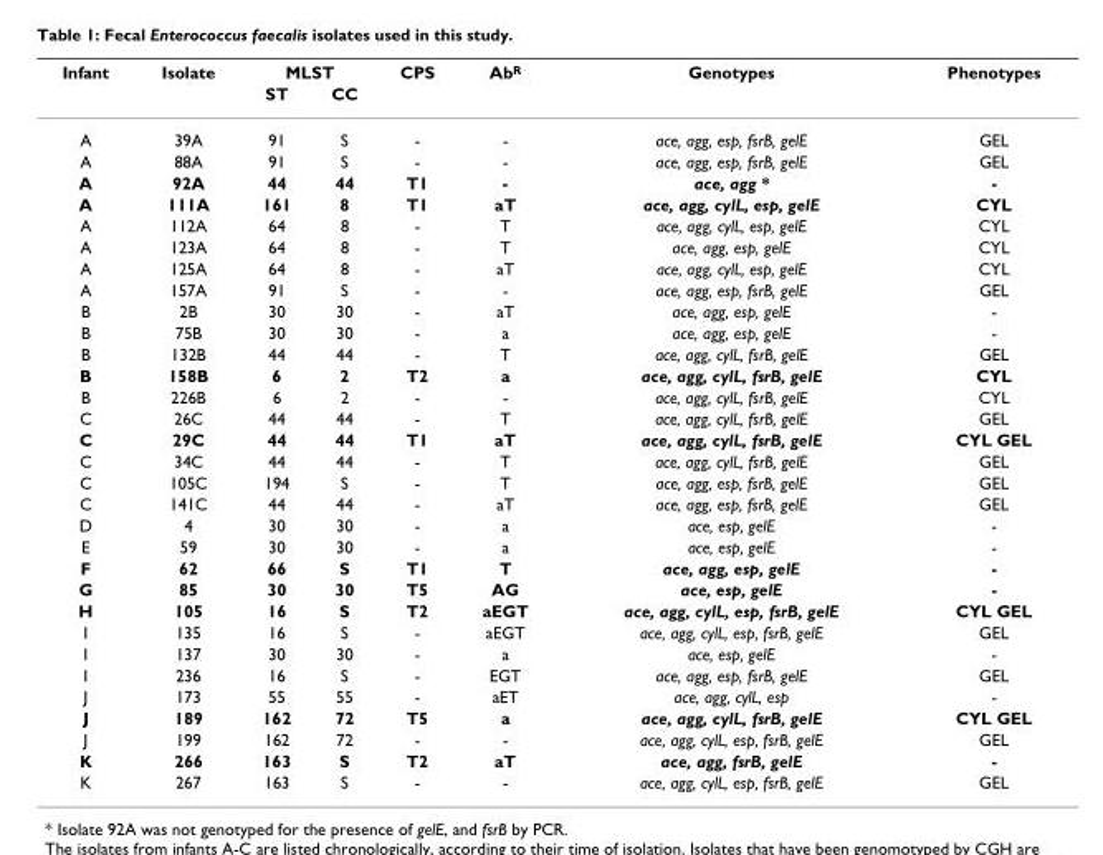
<table><thead><tr><td rowspan="2">Infant</td><td rowspan="2">Isolate</td><td colspan="2">MLST</td><td rowspan="2">CPS</td><td rowspan="2">Ab<sup>R</sup></td><td rowspan="2">Genotypes</td><td rowspan="2">Phenotypes</td></tr><tr><td>ST</td><td>CC</td></tr></thead><tbody><tr><td>A</td><td>39A</td><td>91</td><td>S</td><td>-</td><td>-</td><td>ace, agg, esp, fsrB, gelE</td><td>GEL</td></tr><tr><td>A</td><td>88A</td><td>91</td><td>S</td><td>-</td><td>-</td><td>ace, agg, esp, fsrB, gelE</td><td>GEL</td></tr><tr><td>A</td><td>92A</td><td>44</td><td>44</td><td>T1</td><td>-</td><td>ace, agg *</td><td>-</td></tr><tr><td>A</td><td>111A</td><td>161</td><td>8</td><td>T1</td><td>aT</td><td>ace, agg, cylL, esp, gelE</td><td>CYL</td></tr><tr><td>A</td><td>112A</td><td>64</td><td>8</td><td>-</td><td>T</td><td>ace, agg, cylL, esp, gelE</td><td>CYL</td></tr><tr><td>A</td><td>123A</td><td>64</td><td>8</td><td>-</td><td>T</td><td>ace, agg, esp, gelE</td><td>CYL</td></tr><tr><td>A</td><td>125A</td><td>64</td><td>8</td><td>-</td><td>aT</td><td>ace, agg, cylL, esp, gelE</td><td>CYL</td></tr><tr><td>A</td><td>157A</td><td>91</td><td>S</td><td>-</td><td>-</td><td>ace, agg, esp, fsrB, gelE</td><td>GEL</td></tr><tr><td>B</td><td>2B</td><td>30</td><td>30</td><td>-</td><td>aT</td><td>ace, agg, esp, gelE</td><td>-</td></tr><tr><td>B</td><td>75B</td><td>30</td><td>30</td><td>-</td><td>a</td><td>ace, agg, esp, gelE</td><td>-</td></tr><tr><td>B</td><td>132B</td><td>44</td><td>44</td><td>-</td><td>T</td><td>ace, agg, cylL, fsrB, gelE</td><td>GEL</td></tr><tr><td>B</td><td>158B</td><td>6</td><td>2</td><td>T2</td><td>a</td><td>ace, agg, cylL, fsrB, gelE</td><td>CYL</td></tr><tr><td>B</td><td>226B</td><td>6</td><td>2</td><td>-</td><td>-</td><td>ace, agg, cylL, fsrB, gelE</td><td>CYL</td></tr><tr><td>C</td><td>26C</td><td>44</td><td>44</td><td>-</td><td>T</td><td>ace, agg, cylL, fsrB, gelE</td><td>GEL</td></tr><tr><td>C</td><td>29C</td><td>44</td><td>44</td><td>T1</td><td>aT</td><td>ace, agg, cylL, fsrB, gelE</td><td>CYL GEL</td></tr><tr><td>C</td><td>34C</td><td>44</td><td>44</td><td>-</td><td>T</td><td>ace, agg, cylL, fsrB, gelE</td><td>GEL</td></tr><tr><td>C</td><td>105C</td><td>194</td><td>S</td><td>-</td><td>T</td><td>ace, agg, esp, fsrB, gelE</td><td>GEL</td></tr><tr><td>C</td><td>141C</td><td>44</td><td>44</td><td>-</td><td>aT</td><td>ace, agg, esp, fsrB, gelE</td><td>GEL</td></tr><tr><td>D</td><td>4</td><td>30</td><td>30</td><td>-</td><td>a</td><td>ace, esp, gelE</td><td>-</td></tr><tr><td>E</td><td>59</td><td>30</td><td>30</td><td>-</td><td>a</td><td>ace, esp, gelE</td><td>-</td></tr><tr><td>F</td><td>62</td><td>66</td><td>S</td><td>T1</td><td>T</td><td>ace, agg, esp, gelE</td><td>-</td></tr><tr><td>G</td><td>85</td><td>30</td><td>30</td><td>T5</td><td>AG</td><td>ace, esp, gelE</td><td>-</td></tr><tr><td>H</td><td>105</td><td>16</td><td>S</td><td>T2</td><td>aEGT</td><td>ace, agg, cylL, esp, fsrB, gelE</td><td>CYL GEL</td></tr><tr><td>I</td><td>135</td><td>16</td><td>S</td><td>-</td><td>aEGT</td><td>ace, agg, cylL, esp, fsrB, gelE</td><td>GEL</td></tr><tr><td>I</td><td>137</td><td>30</td><td>30</td><td>-</td><td>a</td><td>ace, esp, gelE</td><td>-</td></tr><tr><td>I</td><td>236</td><td>16</td><td>S</td><td>-</td><td>EGT</td><td>ace, agg, esp, fsrB, gelE</td><td>GEL</td></tr><tr><td>J</td><td>173</td><td>55</td><td>55</td><td>-</td><td>aET</td><td>ace, agg, cylL, esp</td><td>-</td></tr><tr><td>J</td><td>189</td><td>162</td><td>72</td><td>T5</td><td>a</td><td>ace, agg, cylL, fsrB, gelE</td><td>CYL GEL</td></tr><tr><td>J</td><td>199</td><td>162</td><td>72</td><td>-</td><td>-</td><td>ace, agg, cylL, esp, fsrB, gelE</td><td>GEL</td></tr><tr><td>K</td><td>266</td><td>163</td><td>S</td><td>T2</td><td>aT</td><td>ace, agg, fsrB, gelE</td><td>-</td></tr><tr><td>K</td><td>267</td><td>163</td><td>S</td><td>-</td><td>-</td><td>ace, agg, cylL, esp, fsrB, gelE</td><td>GEL</td></tr></tbody></table>